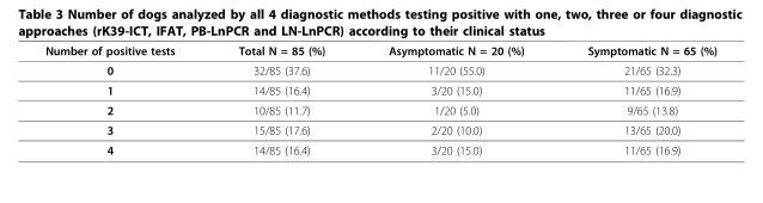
<table><thead><tr><td>Number of positive tests</td><td>Total N = 85 (%)</td><td>Asymptomatic N = 20 (%)</td><td>Symptomatic N = 65 (%)</td></tr></thead><tbody><tr><td>0</td><td>32/85 (37.6)</td><td>11/20 (55.0)</td><td>21/65 (32.3)</td></tr><tr><td>1</td><td>14/85 (16.4)</td><td>3/20 (15.0)</td><td>11/65 (16.9)</td></tr><tr><td>2</td><td>10/85 (11.7)</td><td>1/20 (5.0)</td><td>9/65 (13.8)</td></tr><tr><td>3</td><td>15/85 (17.6)</td><td>2/20 (10.0)</td><td>13/65 (20.0)</td></tr><tr><td>4</td><td>14/85 (16.4)</td><td>3/20 (15.0)</td><td>11/65 (16.9)</td></tr></tbody></table>